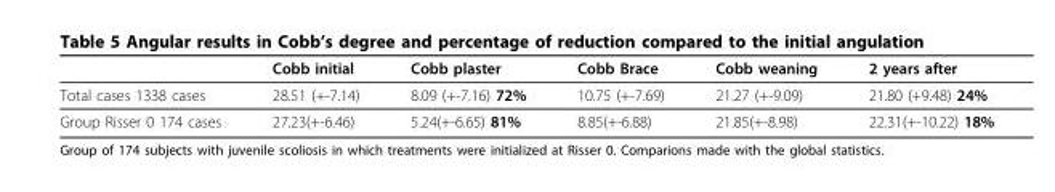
<table><thead><tr><td></td><td>Cobb initial</td><td>Cobb plaster</td><td>Cobb Brace</td><td>Cobb weaning</td><td>2 years after</td></tr></thead><tbody><tr><td>Total cases 1338 cases</td><td>28.51 (+-7.14)</td><td>8.09 (+-7.16) 72%</td><td>10.75 (+-7.69)</td><td>21.27 (+-9.09)</td><td>21.80 (+9.48) 24%</td></tr><tr><td>Group Risser 0 174 cases</td><td>27.23(+-6.46)</td><td>5.24(+-6.65) 81%</td><td>8.85(+-6.88)</td><td>21.85(+-8.98)</td><td>22.31(+-10.22) 18%</td></tr></tbody></table>